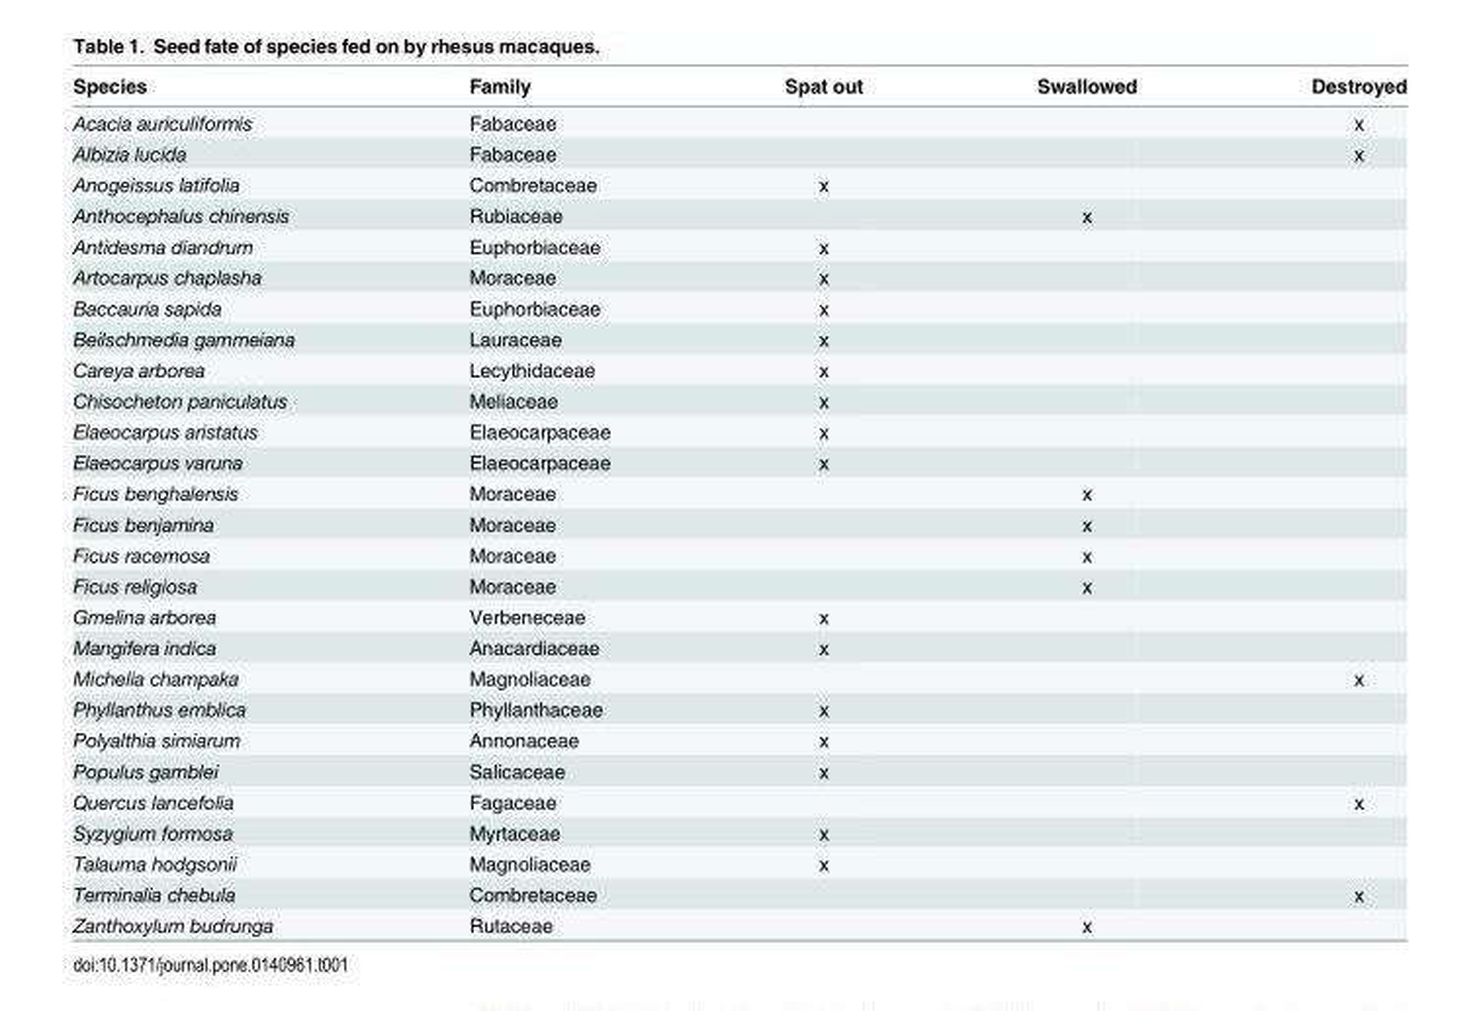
<table><thead><tr><td>Species</td><td>Family</td><td>Spat out</td><td>Swallowed</td><td>Destroyed</td></tr></thead><tbody><tr><td>Acacia auriculiformis</td><td>Fabaceae</td><td></td><td></td><td>x</td></tr><tr><td>Albizia lucida</td><td>Fabaceae</td><td></td><td></td><td>x</td></tr><tr><td>Anogeissus latifolia</td><td>Combretaceae</td><td>x</td><td></td><td></td></tr><tr><td>Anthocephalus chinensis</td><td>Rubiaceae</td><td></td><td>x</td><td></td></tr><tr><td>Antidesma diandrum</td><td>Euphorbiaceae</td><td>x</td><td></td><td></td></tr><tr><td>Artocarpus chaplasha</td><td>Moraceae</td><td>x</td><td></td><td></td></tr><tr><td>Baccauria sapida</td><td>Euphorbiaceae</td><td>x</td><td></td><td></td></tr><tr><td>Beilschmedia gammeiana</td><td>Lauraceae</td><td>x</td><td></td><td></td></tr><tr><td>Careya arborea</td><td>Lecythidaceae</td><td>x</td><td></td><td></td></tr><tr><td>Chisocheton paniculatus</td><td>Meliaceae</td><td>x</td><td></td><td></td></tr><tr><td>Elaeocarpus aristatus</td><td>Elaeocarpaceae</td><td>x</td><td></td><td></td></tr><tr><td>Elaeocarpus varuna</td><td>Elaeocarpaceae</td><td>x</td><td></td><td></td></tr><tr><td>Ficus benghalensis</td><td>Moraceae</td><td></td><td>x</td><td></td></tr><tr><td>Ficus benjamina</td><td>Moraceae</td><td></td><td>x</td><td></td></tr><tr><td>Ficus racemosa</td><td>Moraceae</td><td></td><td>x</td><td></td></tr><tr><td>Ficus religiosa</td><td>Moraceae</td><td></td><td>x</td><td></td></tr><tr><td>Gmelina arborea</td><td>Verbeneceae</td><td>x</td><td></td><td></td></tr><tr><td>Mangifera indica</td><td>Anacardiaceae</td><td>x</td><td></td><td></td></tr><tr><td>Michelia champaka</td><td>Magnoliaceae</td><td></td><td></td><td>x</td></tr><tr><td>Phyllanthus emblica</td><td>Phyllanthaceae</td><td>x</td><td></td><td></td></tr><tr><td>Polyalthia simiarum</td><td>Annonaceae</td><td>x</td><td></td><td></td></tr><tr><td>Populus gamblei</td><td>Salicaceae</td><td>x</td><td></td><td></td></tr><tr><td>Quercus lancefolia</td><td>Fagaceae</td><td></td><td></td><td>x</td></tr><tr><td>Syzygium formosa</td><td>Myrtaceae</td><td>x</td><td></td><td></td></tr><tr><td>Talauma hodgsonii</td><td>Magnoliaceae</td><td>x</td><td></td><td></td></tr><tr><td>Terminalia chebula</td><td>Combretaceae</td><td></td><td></td><td>x</td></tr><tr><td>Zanthoxylum budrunga</td><td>Rutaceae</td><td></td><td>x</td><td></td></tr></tbody></table>